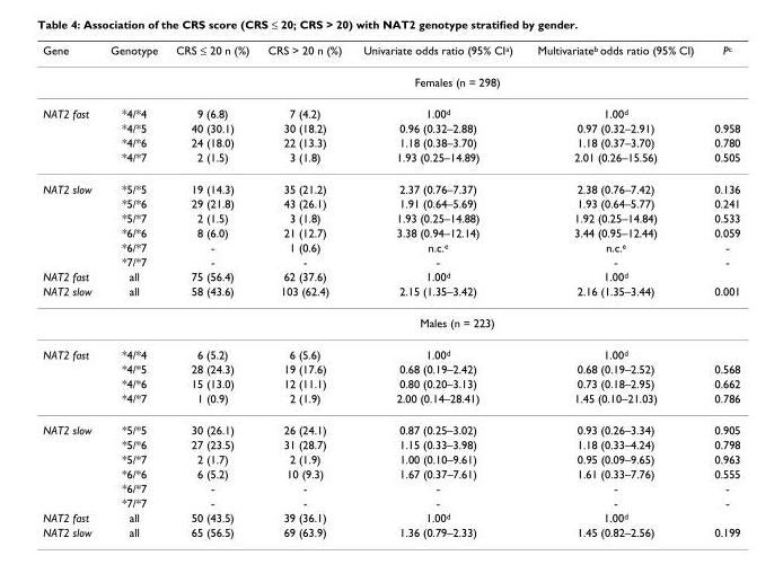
<table><thead><tr><td>Gene</td><td>Genotype</td><td>CRS ≤ 20 n (%)</td><td>CRS &gt; 20 n (%)</td><td>Univariate odds ratio (95% CI<sup>a</sup>)</td><td>Multivariate<sup>b</sup> odds ratio (95% CI)</td><td>P<sup>c</sup></td></tr></thead><tbody><tr><td></td><td></td><td colspan="5">Females (n = 298)</td></tr><tr><td rowspan="4">NAT2 fast</td><td>*4/*4</td><td>9 (6.8)</td><td>7 (4.2)</td><td>1.00<sup>d</sup></td><td>1.00<sup>d</sup></td><td></td></tr><tr><td>*4/*5</td><td>40 (30.1)</td><td>30 (18.2)</td><td>0.96 (0.32–2.88)</td><td>0.97 (0.32–2.91)</td><td>0.958</td></tr><tr><td>*4/*6</td><td>24 (18.0)</td><td>22 (13.3)</td><td>1.18 (0.38–3.70)</td><td>1.18 (0.37–3.70)</td><td>0.780</td></tr><tr><td>*4/*7</td><td>2 (1.5)</td><td>3 (1.8)</td><td>1.93 (0.25–14.89)</td><td>2.01 (0.26–15.56)</td><td>0.505</td></tr><tr><td rowspan="6">NAT2 slow</td><td>*5/*5</td><td>19 (14.3)</td><td>35 (21.2)</td><td>2.37 (0.76–7.37)</td><td>2.38 (0.76–7.42)</td><td>0.136</td></tr><tr><td>*5/*6</td><td>29 (21.8)</td><td>43 (26.1)</td><td>1.91 (0.64–5.69)</td><td>1.93 (0.64–5.77)</td><td>0.241</td></tr><tr><td>*5/*7</td><td>2 (1.5)</td><td>3 (1.8)</td><td>1.93 (0.25–14.88)</td><td>1.92 (0.25–14.84)</td><td>0.533</td></tr><tr><td>*6/*6</td><td>8 (6.0)</td><td>21 (12.7)</td><td>3.38 (0.94–12.14)</td><td>3.44 (0.95–12.44)</td><td>0.059</td></tr><tr><td>*6/*7</td><td>-</td><td>1 (0.6)</td><td>n.c.<sup>e</sup></td><td>n.c.<sup>e</sup></td><td>-</td></tr><tr><td>*7/*7</td><td>-</td><td>-</td><td>-</td><td>-</td><td>-</td></tr><tr><td>NAT2 fast</td><td>all</td><td>75 (56.4)</td><td>62 (37.6)</td><td>1.00<sup>d</sup></td><td>1.00<sup>d</sup></td><td></td></tr><tr><td rowspan="2">NAT2 slow</td><td>all</td><td>58 (43.6)</td><td>103 (62.4)</td><td>2.15 (1.35–3.42)</td><td>2.16 (1.35–3.44)</td><td>0.001</td></tr><tr><td></td><td colspan="5">Males (n = 223)</td></tr><tr><td rowspan="4">NAT2 fast</td><td>*4/*4</td><td>6 (5.2)</td><td>6 (5.6)</td><td>1.00<sup>d</sup></td><td>1.00<sup>d</sup></td><td></td></tr><tr><td>*4/*5</td><td>28 (24.3)</td><td>19 (17.6)</td><td>0.68 (0.19–2.42)</td><td>0.68 (0.19–2.52)</td><td>0.568</td></tr><tr><td>*4/*6</td><td>15 (13.0)</td><td>12 (11.1)</td><td>0.80 (0.20–3.13)</td><td>0.73 (0.18–2.95)</td><td>0.662</td></tr><tr><td>*4/*7</td><td>1 (0.9)</td><td>2 (1.9)</td><td>2.00 (0.14–28.41)</td><td>1.45 (0.10–21.03)</td><td>0.786</td></tr><tr><td rowspan="6">NAT2 slow</td><td>*5/*5</td><td>30 (26.1)</td><td>26 (24.1)</td><td>0.87 (0.25–3.02)</td><td>0.93 (0.26–3.34)</td><td>0.905</td></tr><tr><td>*5/*6</td><td>27 (23.5)</td><td>31 (28.7)</td><td>1.15 (0.33–3.98)</td><td>1.18 (0.33–4.24)</td><td>0.798</td></tr><tr><td>*5/*7</td><td>2 (1.7)</td><td>2 (1.9)</td><td>1.00 (0.10–9.61)</td><td>0.95 (0.09–9.65)</td><td>0.963</td></tr><tr><td>*6/*6</td><td>6 (5.2)</td><td>10 (9.3)</td><td>1.67 (0.37–7.61)</td><td>1.61 (0.33–7.76)</td><td>0.555</td></tr><tr><td>*6/*7</td><td>-</td><td>-</td><td>-</td><td>-</td><td>-</td></tr><tr><td>*7/*7</td><td>-</td><td>-</td><td>-</td><td>-</td><td>-</td></tr><tr><td>NAT2 fast</td><td>all</td><td>50 (43.5)</td><td>39 (36.1)</td><td>1.00<sup>d</sup></td><td>1.00<sup>d</sup></td><td></td></tr><tr><td>NAT2 slow</td><td>all</td><td>65 (56.5)</td><td>69 (63.9)</td><td>1.36 (0.79–2.33)</td><td>1.45 (0.82–2.56)</td><td>0.199</td></tr></tbody></table>